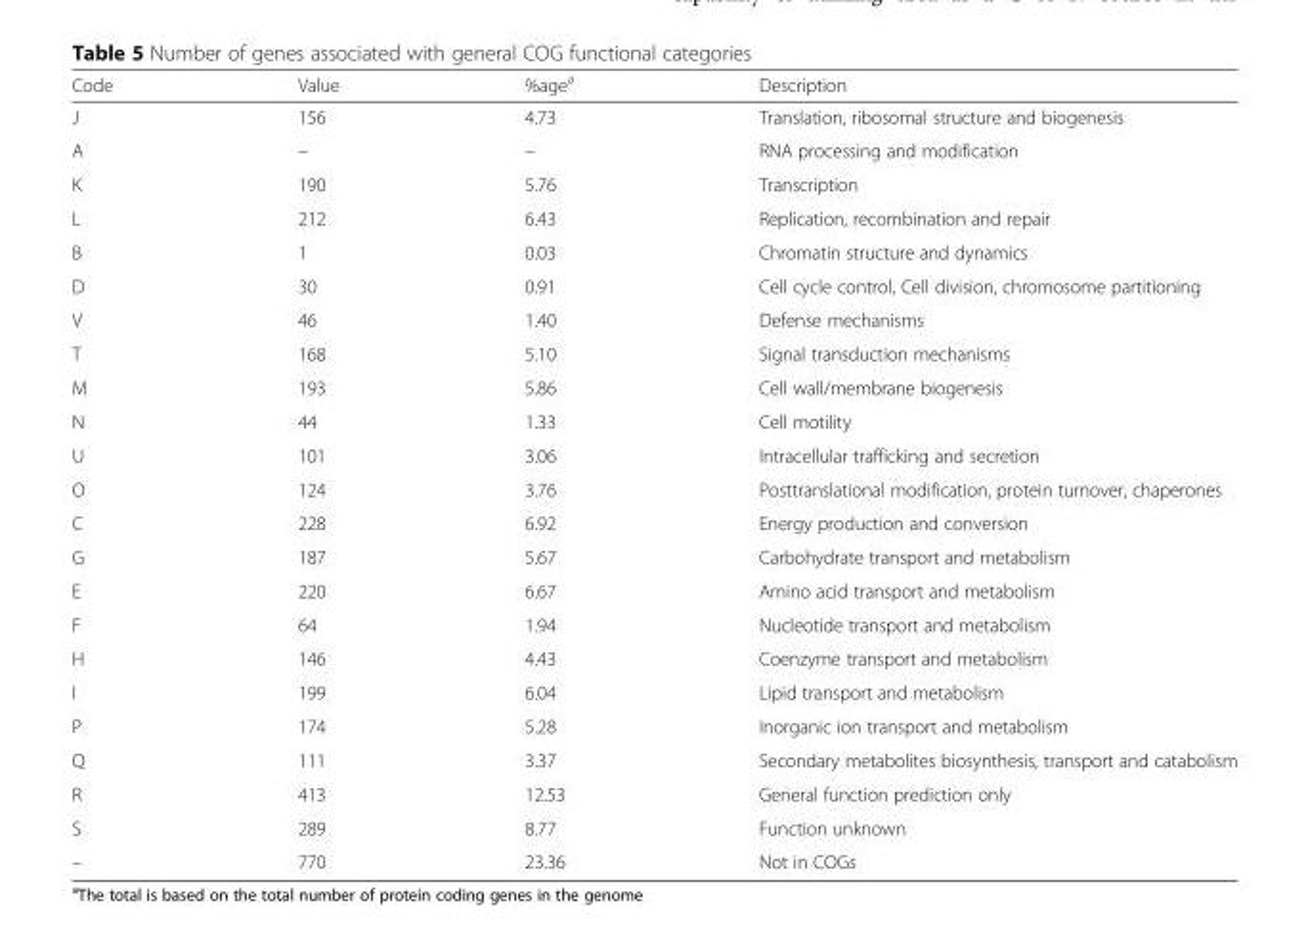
<table><thead><tr><td>Code</td><td>Value</td><td>%age<sup>a</sup></td><td>Description</td></tr></thead><tbody><tr><td>J</td><td>156</td><td>4.73</td><td>Translation, ribosomal structure and biogenesis</td></tr><tr><td>A</td><td>–</td><td>–</td><td>RNA processing and modification</td></tr><tr><td>K</td><td>190</td><td>5.76</td><td>Transcription</td></tr><tr><td>L</td><td>212</td><td>6.43</td><td>Replication, recombination and repair</td></tr><tr><td>B</td><td>1</td><td>0.03</td><td>Chromatin structure and dynamics</td></tr><tr><td>D</td><td>30</td><td>0.91</td><td>Cell cycle control, Cell division, chromosome partitioning</td></tr><tr><td>V</td><td>46</td><td>1.40</td><td>Defense mechanisms</td></tr><tr><td>T</td><td>168</td><td>5.10</td><td>Signal transduction mechanisms</td></tr><tr><td>M</td><td>193</td><td>5.86</td><td>Cell wall/membrane biogenesis</td></tr><tr><td>N</td><td>44</td><td>1.33</td><td>Cell motility</td></tr><tr><td>U</td><td>101</td><td>3.06</td><td>Intracellular trafficking and secretion</td></tr><tr><td>O</td><td>124</td><td>3.76</td><td>Posttranslational modification, protein turnover, chaperones</td></tr><tr><td>C</td><td>228</td><td>6.92</td><td>Energy production and conversion</td></tr><tr><td>G</td><td>187</td><td>5.67</td><td>Carbohydrate transport and metabolism</td></tr><tr><td>E</td><td>220</td><td>6.67</td><td>Amino acid transport and metabolism</td></tr><tr><td>F</td><td>64</td><td>1.94</td><td>Nucleotide transport and metabolism</td></tr><tr><td>H</td><td>146</td><td>4.43</td><td>Coenzyme transport and metabolism</td></tr><tr><td>I</td><td>199</td><td>6.04</td><td>Lipid transport and metabolism</td></tr><tr><td>P</td><td>174</td><td>5.28</td><td>Inorganic ion transport and metabolism</td></tr><tr><td>Q</td><td>111</td><td>3.37</td><td>Secondary metabolites biosynthesis, transport and catabolism</td></tr><tr><td>R</td><td>413</td><td>12.53</td><td>General function prediction only</td></tr><tr><td>S</td><td>289</td><td>8.77</td><td>Function unknown</td></tr><tr><td>–</td><td>770</td><td>23.36</td><td>Not in COGs</td></tr></tbody></table>